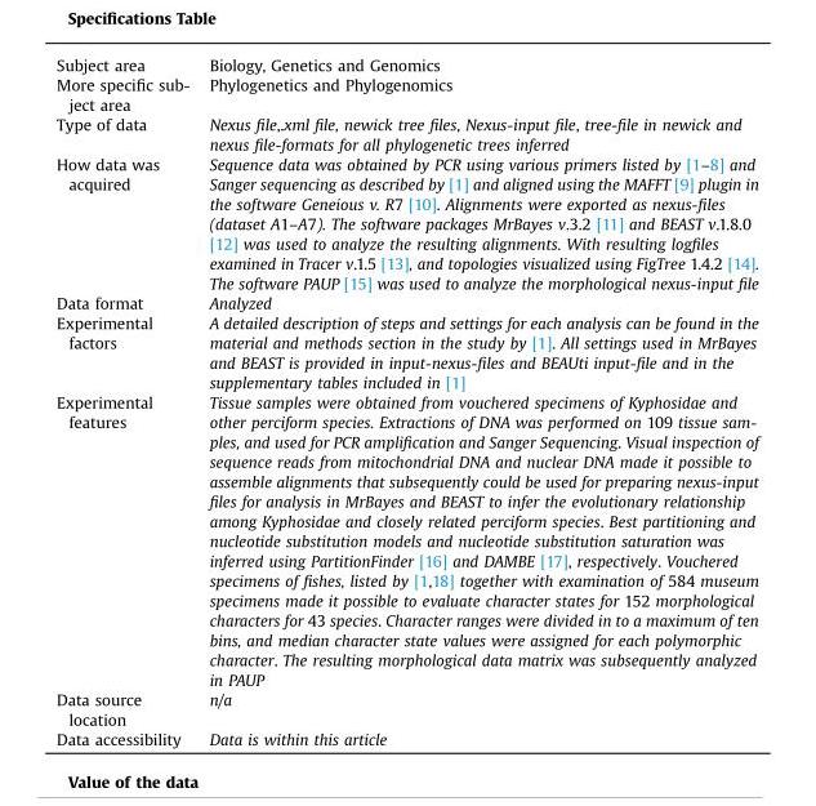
<table><tbody><tr><td>Subject area</td><td>Biology, Genetics and Genomics</td></tr><tr><td>More specific sub- ject area</td><td>Phylogenetics and Phylogenomics</td></tr><tr><td>Type of data</td><td>Nexus file,.xml file, newick tree files, Nexus-input file, tree-file in newick and nexus file-formats for all phylogenetic trees inferred</td></tr><tr><td>How data was acquired</td><td>Sequence data was obtained by PCR using various primers listed by [1–8] and Sanger sequencing as described by [1] and aligned using the MAFFT [9] plugin in the software Geneious v. R7 [10]. Alignments were exported as nexus-files (dataset A1–A7). The software packages MrBayes v.3.2 [11] and BEAST v.1.8.0 [12] was used to analyze the resulting alignments. With resulting logfiles examined in Tracer v.1.5 [13], and topologies visualized using FigTree 1.4.2 [14]. The software PAUP [15] was used to analyze the morphological nexus-input file</td></tr><tr><td>Data format</td><td>Analyzed</td></tr><tr><td>Experimental factors</td><td>A detailed description of steps and settings for each analysis can be found in the material and methods section in the study by [1]. All settings used in MrBayes and BEAST is provided in input-nexus-files and BEAUti input-file and in the supplementary tables included in [1]</td></tr><tr><td>Experimental features</td><td>Tissue samples were obtained from vouchered specimens of Kyphosidae and other perciform species. Extractions of DNA was performed on 109 tissue sam- ples, and used for PCR amplification and Sanger Sequencing. Visual inspection of sequence reads from mitochondrial DNA and nuclear DNA made it possible to assemble alignments that subsequently could be used for preparing nexus-input files for analysis in MrBayes and BEAST to infer the evolutionary relationship among Kyphosidae and closely related perciform species. Best partitioning and nucleotide substitution models and nucleotide substitution saturation was inferred using PartitionFinder [16] and DAMBE [17], respectively. Vouchered specimens of fishes, listed by [1,18] together with examination of 584 museum specimens made it possible to evaluate character states for 152 morphological characters for 43 species. Character ranges were divided in to a maximum of ten bins, and median character state values were assigned for each polymorphic character. The resulting morphological data matrix was subsequently analyzed in PAUP</td></tr><tr><td>Data source location</td><td>n/a</td></tr><tr><td>Data accessibility</td><td>Data is within this article</td></tr></tbody></table>